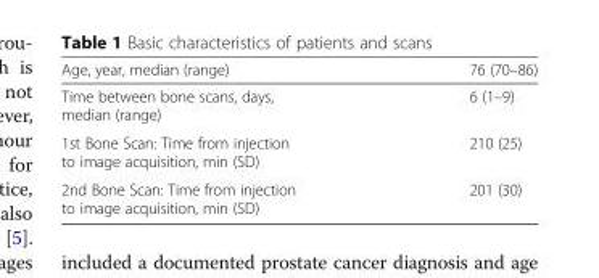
<table><thead><tr><td>Age, year, median (range)</td><td>76 (70–86)</td></tr></thead><tbody><tr><td>Time between bone scans, days, median (range)</td><td>6 (1–9)</td></tr><tr><td>1st Bone Scan: Time from injection to image acquisition, min (SD)</td><td>210 (25)</td></tr><tr><td>2nd Bone Scan: Time from injection to image acquisition, min (SD)</td><td>201 (30)</td></tr></tbody></table>